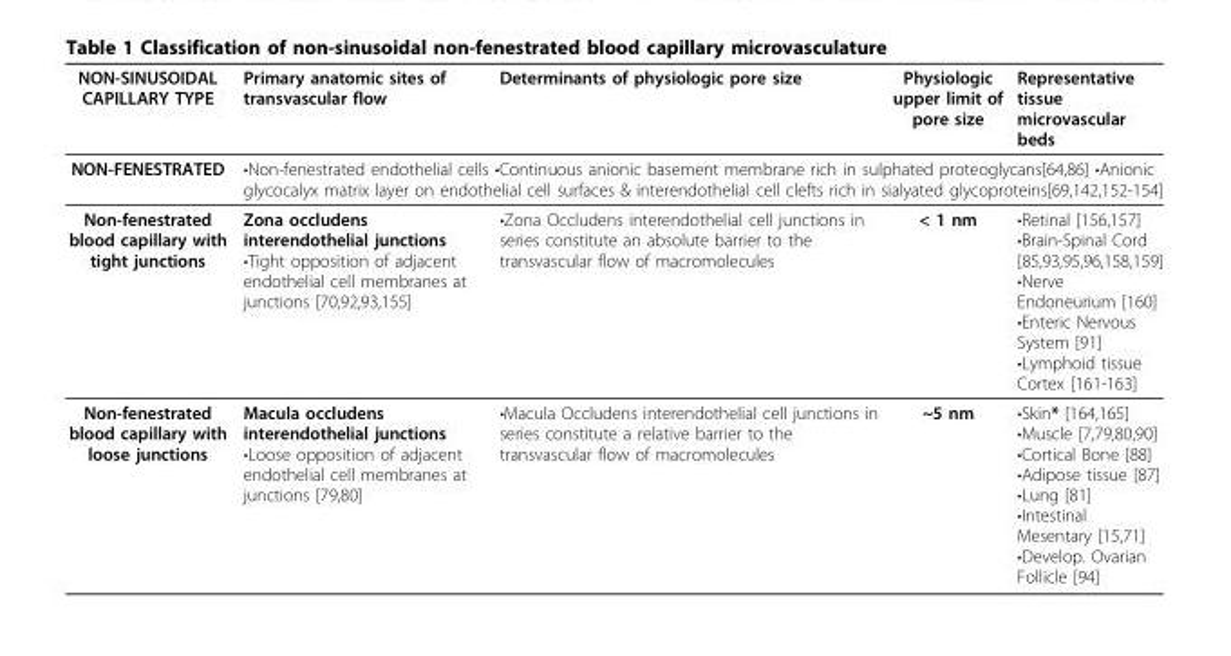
<table><thead><tr><td>NON-SINUSOIDAL CAPILLARY TYPE</td><td>Primary anatomic sites of transvascular flow</td><td>Determinants of physiologic pore size</td><td>Physiologic upper limit of pore size</td><td>Representative tissue microvascular beds</td></tr></thead><tbody><tr><td>NON-FENESTRATED</td><td colspan="4">•Non-fenestrated endothelial cells •Continuous anionic basement membrane rich in sulphated proteoglycans[64,86] •Anionic glycocalyx matrix layer on endothelial cell surfaces &amp; interendothelial cell clefts rich in sialyated glycoproteins[69,142,152-154]</td></tr><tr><td>Non-fenestrated blood capillary with tight junctions</td><td>Zona occludens interendothelial junctions •Tight opposition of adjacent endothelial cell membranes at junctions [70,92,93,155]</td><td>•Zona Occludens interendothelial cell junctions in series constitute an absolute barrier to the transvascular flow of macromolecules</td><td>&lt; 1 nm</td><td>•Retinal [156,157] •Brain-Spinal Cord [85,93,95,96,158,159] •Nerve Endoneurium [160] •Enteric Nervous System [91] •Lymphoid tissue Cortex [161-163]</td></tr><tr><td>Non-fenestrated blood capillary with loose junctions</td><td>Macula occludens interendothelial junctions •Loose opposition of adjacent endothelial cell membranes at junctions [79,80]</td><td>•Macula Occludens interendothelial cell junctions in series constitute a relative barrier to the transvascular flow of macromolecules</td><td>~5 nm</td><td>•Skin* [164,165] •Muscle [7,79,80,90] •Cortical Bone [88] •Adipose tissue [87] •Lung [81] •Intestinal Mesentary [15,71] •Develop. Ovarian Follicle [94]</td></tr></tbody></table>